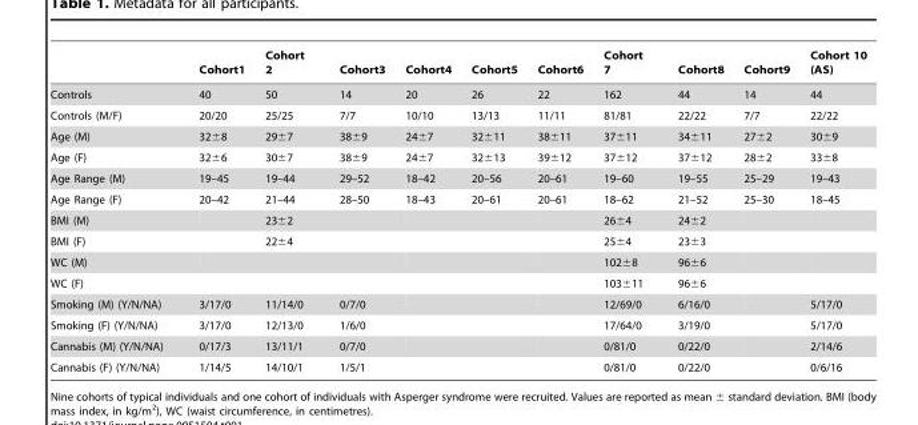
<table><thead><tr><td></td><td>Cohort1</td><td>Cohort 2</td><td>Cohort3</td><td>Cohort4</td><td>Cohort5</td><td>Cohort6</td><td>Cohort 7</td><td>Cohort8</td><td>Cohort9</td><td>Cohort 10 (AS)</td></tr></thead><tbody><tr><td>Controls</td><td>40</td><td>50</td><td>14</td><td>20</td><td>26</td><td>22</td><td>162</td><td>44</td><td>14</td><td>44</td></tr><tr><td>Controls (M/F)</td><td>20/20</td><td>25/25</td><td>7/7</td><td>10/10</td><td>13/13</td><td>11/11</td><td>81/81</td><td>22/22</td><td>7/7</td><td>22/22</td></tr><tr><td>Age (M)</td><td>32±8</td><td>29±7</td><td>38±9</td><td>24±7</td><td>32±11</td><td>38±11</td><td>37±11</td><td>34±11</td><td>27±2</td><td>30±9</td></tr><tr><td>Age (F)</td><td>32±6</td><td>30±7</td><td>38±9</td><td>24±7</td><td>32±13</td><td>39±12</td><td>37±12</td><td>37±12</td><td>28±2</td><td>33±8</td></tr><tr><td>Age Range (M)</td><td>19–45</td><td>19–44</td><td>29–52</td><td>18–42</td><td>20–56</td><td>20–61</td><td>19–60</td><td>19–55</td><td>25–29</td><td>19–43</td></tr><tr><td>Age Range (F)</td><td>20–42</td><td>21–44</td><td>28–50</td><td>18–43</td><td>20–61</td><td>20–61</td><td>18–62</td><td>21–52</td><td>25–30</td><td>18–45</td></tr><tr><td>BMI (M)</td><td></td><td>23±2</td><td></td><td></td><td></td><td></td><td>26±4</td><td>24±2</td><td></td><td></td></tr><tr><td>BMI (F)</td><td></td><td>22±4</td><td></td><td></td><td></td><td></td><td>25±4</td><td>23±3</td><td></td><td></td></tr><tr><td>WC (M)</td><td></td><td></td><td></td><td></td><td></td><td></td><td>102±8</td><td>96±6</td><td></td><td></td></tr><tr><td>WC (F)</td><td></td><td></td><td></td><td></td><td></td><td></td><td>103±11</td><td>96±6</td><td></td><td></td></tr><tr><td>Smoking (M) (Y/N/NA)</td><td>3/17/0</td><td>11/14/0</td><td>0/7/0</td><td></td><td></td><td></td><td>12/69/0</td><td>6/16/0</td><td></td><td>5/17/0</td></tr><tr><td>Smoking (F) (Y/N/NA)</td><td>3/17/0</td><td>12/13/0</td><td>1/6/0</td><td></td><td></td><td></td><td>17/64/0</td><td>3/19/0</td><td></td><td>5/17/0</td></tr><tr><td>Cannabis (M) (Y/N/NA)</td><td>0/17/3</td><td>13/11/1</td><td>0/7/0</td><td></td><td></td><td></td><td>0/81/0</td><td>0/22/0</td><td></td><td>2/14/6</td></tr><tr><td>Cannabis (F) (Y/N/NA)</td><td>1/14/5</td><td>14/10/1</td><td>1/5/1</td><td></td><td></td><td></td><td>0/81/0</td><td>0/22/0</td><td></td><td>0/6/16</td></tr></tbody></table>